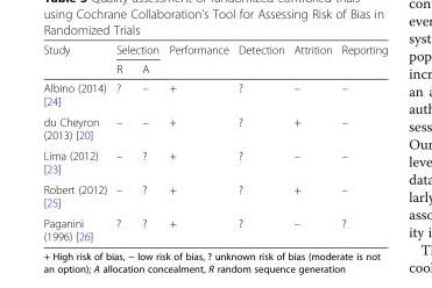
<table><thead><tr><td rowspan="2">Study</td><td colspan="2">Selection</td><td rowspan="2">Performance</td><td rowspan="2">Detection</td><td rowspan="2">Attrition</td><td rowspan="2">Reporting</td></tr><tr><td>R</td><td>A</td></tr></thead><tbody><tr><td>Albino (2014) [24]</td><td>?</td><td>–</td><td>+</td><td>?</td><td>–</td><td>–</td></tr><tr><td>du Cheyron (2013) [20]</td><td>–</td><td>–</td><td>+</td><td>?</td><td>+</td><td>–</td></tr><tr><td>Lima (2012) [23]</td><td>–</td><td>?</td><td>+</td><td>?</td><td>–</td><td>–</td></tr><tr><td>Robert (2012) [25]</td><td>–</td><td>?</td><td>+</td><td>?</td><td>+</td><td>–</td></tr><tr><td>Paganini (1996) [26]</td><td>?</td><td>?</td><td>+</td><td>?</td><td>–</td><td>?</td></tr></tbody></table>